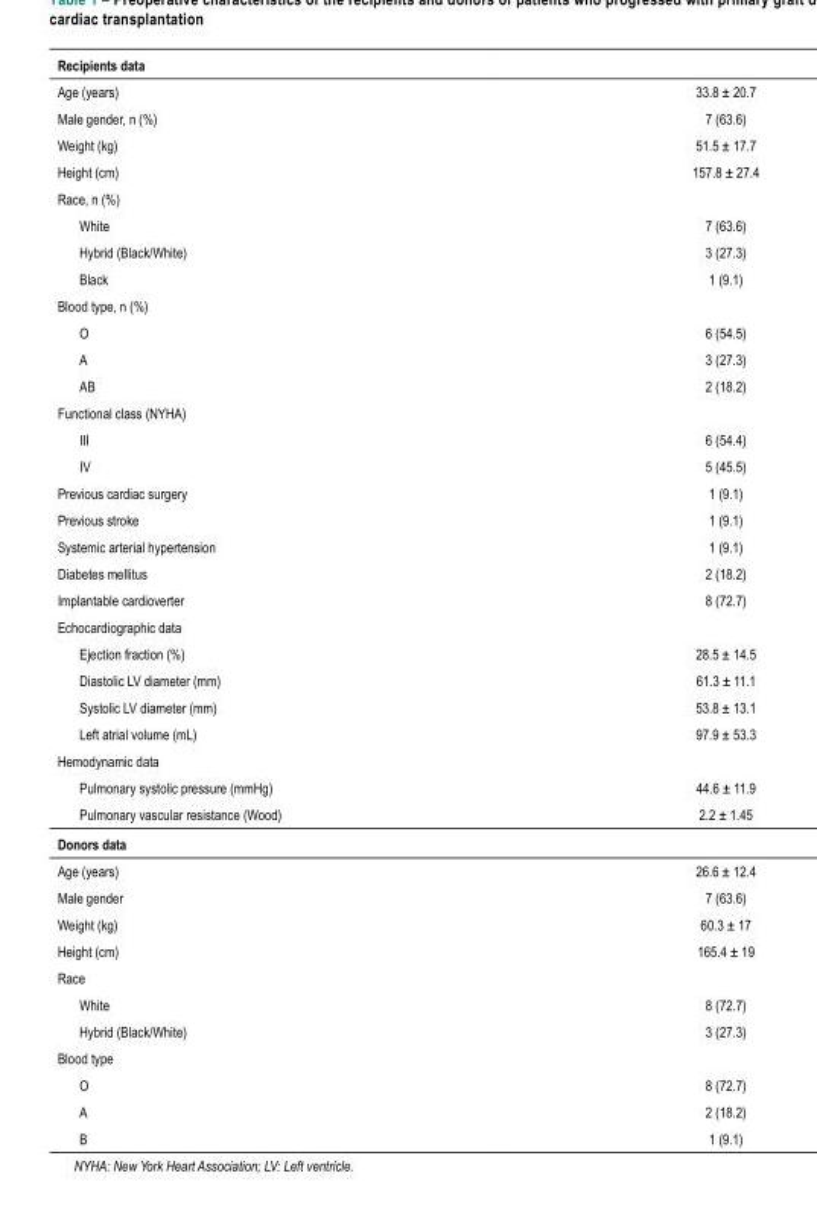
<table><thead><tr><td>Recipients data</td><td></td></tr></thead><tbody><tr><td>Age (years)</td><td>33.8 ± 20.7</td></tr><tr><td>Male gender, n (%)</td><td>7 (63.6)</td></tr><tr><td>Weight (kg)</td><td>51.5 ± 17.7</td></tr><tr><td>Height (cm)</td><td>157.8 ± 27.4</td></tr><tr><td colspan="2">Race, n (%)</td></tr><tr><td>White</td><td>7 (63.6)</td></tr><tr><td>Hybrid (Black/White)</td><td>3 (27.3)</td></tr><tr><td>Black</td><td>1 (9.1)</td></tr><tr><td colspan="2">Blood type, n (%)</td></tr><tr><td>O</td><td>6 (54.5)</td></tr><tr><td>A</td><td>3 (27.3)</td></tr><tr><td>AB</td><td>2 (18.2)</td></tr><tr><td colspan="2">Functional class (NYHA)</td></tr><tr><td>III</td><td>6 (54.4)</td></tr><tr><td>IV</td><td>5 (45.5)</td></tr><tr><td>Previous cardiac surgery</td><td>1 (9.1)</td></tr><tr><td>Previous stroke</td><td>1 (9.1)</td></tr><tr><td>Systemic arterial hypertension</td><td>1 (9.1)</td></tr><tr><td>Diabetes mellitus</td><td>2 (18.2)</td></tr><tr><td>Implantable cardioverter</td><td>8 (72.7)</td></tr><tr><td colspan="2">Echocardiographic data</td></tr><tr><td>Ejection fraction (%)</td><td>28.5 ± 14.5</td></tr><tr><td>Diastolic LV diameter (mm)</td><td>61.3 ± 11.1</td></tr><tr><td>Systolic LV diameter (mm)</td><td>53.8 ± 13.1</td></tr><tr><td>Left atrial volume (mL)</td><td>97.9 ± 53.3</td></tr><tr><td colspan="2">Hemodynamic data</td></tr><tr><td>Pulmonary systolic pressure (mmHg)</td><td>44.6 ± 11.9</td></tr><tr><td>Pulmonary vascular resistance (Wood)</td><td>2.2 ± 1.45</td></tr><tr><td colspan="2">Donors data</td></tr><tr><td>Age (years)</td><td>26.6 ± 12.4</td></tr><tr><td>Male gender</td><td>7 (63.6)</td></tr><tr><td>Weight (kg)</td><td>60.3 ± 17</td></tr><tr><td>Height (cm)</td><td>165.4 ± 19</td></tr><tr><td colspan="2">Race</td></tr><tr><td>White</td><td>8 (72.7)</td></tr><tr><td>Hybrid (Black/White)</td><td>3 (27.3)</td></tr><tr><td colspan="2">Blood type</td></tr><tr><td>O</td><td>8 (72.7)</td></tr><tr><td>A</td><td>2 (18.2)</td></tr><tr><td>B</td><td>1 (9.1)</td></tr></tbody></table>